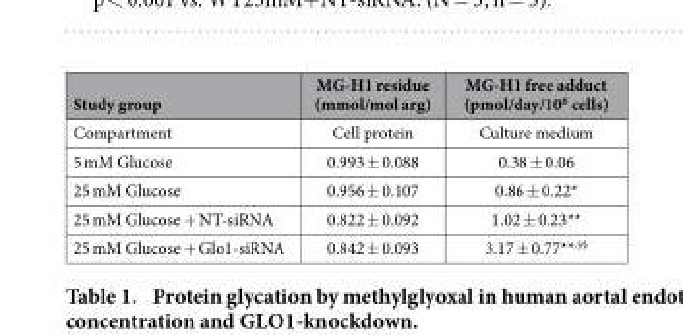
<table><thead><tr><td>Study group</td><td>MG-H1 residue (mmol/mol arg)</td><td>MG-H1 free adduct (pmol/day/10<sup>6</sup> cells)</td></tr></thead><tbody><tr><td>Compartment</td><td>Cell protein</td><td>Culture medium</td></tr><tr><td>5 mM Glucose</td><td>0.993 ± 0.088</td><td>0.38 ± 0.06</td></tr><tr><td>25 mM Glucose</td><td>0.956 ± 0.107</td><td>0.86 ± 0.22*</td></tr><tr><td>25 mM Glucose + NT-siRNA</td><td>0.822 ± 0.092</td><td>1.02 ± 0.23**</td></tr><tr><td>25 mM Glucose + Glo1-siRNA</td><td>0.842 ± 0.093</td><td>3.17 ± 0.77**<sup>,§§</sup></td></tr></tbody></table>